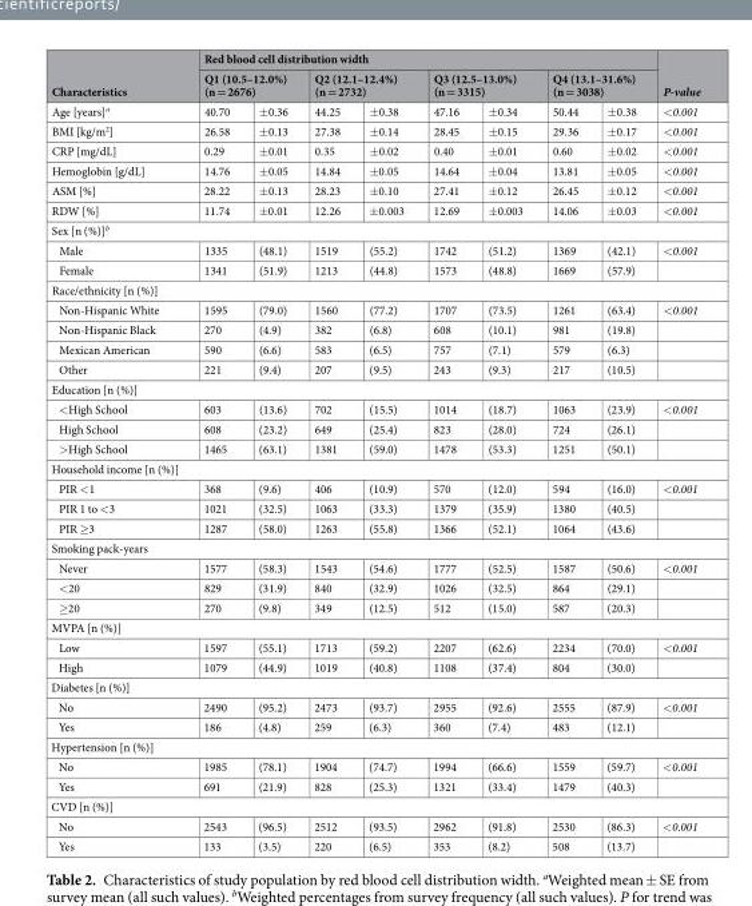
<table><thead><tr><td rowspan="3">Characteristics Age [years]<sup>a</sup></td><td colspan="8">Red blood cell distribution width</td><td rowspan="3">P-value &lt;0.001</td></tr><tr><td colspan="2">Q1 (10.5–12.0%) (n = 2676)</td><td colspan="2">Q2 (12.1–12.4%) (n = 2732)</td><td colspan="2">Q3 (12.5–13.0%) (n = 3315)</td><td colspan="2">Q4 (13.1–31.6%) (n = 3038)</td></tr><tr><td>40.70</td><td>±0.36</td><td>44.25</td><td>±0.38</td><td>47.16</td><td>±0.34</td><td>50.44</td><td>±0.38</td></tr></thead><tbody><tr><td>BMI [kg/m<sup>2</sup>]</td><td>26.58</td><td>±0.13</td><td>27.38</td><td>±0.14</td><td>28.45</td><td>±0.15</td><td>29.36</td><td>±0.17</td><td>&lt;0.001</td></tr><tr><td>CRP [mg/dL]</td><td>0.29</td><td>±0.01</td><td>0.35</td><td>±0.02</td><td>0.40</td><td>±0.01</td><td>0.60</td><td>±0.02</td><td>&lt;0.001</td></tr><tr><td>Hemoglobin [g/dL]</td><td>14.76</td><td>±0.05</td><td>14.84</td><td>±0.05</td><td>14.64</td><td>±0.04</td><td>13.81</td><td>±0.05</td><td>&lt;0.001</td></tr><tr><td>ASM [%]</td><td>28.22</td><td>±0.13</td><td>28.23</td><td>±0.10</td><td>27.41</td><td>±0.12</td><td>26.45</td><td>±0.12</td><td>&lt;0.001</td></tr><tr><td>RDW [%]</td><td>11.74</td><td>±0.01</td><td>12.26</td><td>±0.003</td><td>12.69</td><td>±0.003</td><td>14.06</td><td>±0.03</td><td>&lt;0.001</td></tr><tr><td colspan="10">Sex [n (%)]<sup>b</sup></td></tr><tr><td>Male</td><td>1335</td><td>(48.1)</td><td>1519</td><td>(55.2)</td><td>1742</td><td>(51.2)</td><td>1369</td><td>(42.1)</td><td>&lt;0.001</td></tr><tr><td>Female</td><td>1341</td><td>(51.9)</td><td>1213</td><td>(44.8)</td><td>1573</td><td>(48.8)</td><td>1669</td><td>(57.9)</td><td></td></tr><tr><td colspan="10">Race/ethnicity [n (%)]</td></tr><tr><td>Non-Hispanic White</td><td>1595</td><td>(79.0)</td><td>1560</td><td>(77.2)</td><td>1707</td><td>(73.5)</td><td>1261</td><td>(63.4)</td><td>&lt;0.001</td></tr><tr><td>Non-Hispanic Black</td><td>270</td><td>(4.9)</td><td>382</td><td>(6.8)</td><td>608</td><td>(10.1)</td><td>981</td><td>(19.8)</td><td></td></tr><tr><td>Mexican American</td><td>590</td><td>(6.6)</td><td>583</td><td>(6.5)</td><td>757</td><td>(7.1)</td><td>579</td><td>(6.3)</td><td></td></tr><tr><td>Other</td><td>221</td><td>(9.4)</td><td>207</td><td>(9.5)</td><td>243</td><td>(9.3)</td><td>217</td><td>(10.5)</td><td></td></tr><tr><td colspan="10">Education [n (%)]</td></tr><tr><td>&lt;High School</td><td>603</td><td>(13.6)</td><td>702</td><td>(15.5)</td><td>1014</td><td>(18.7)</td><td>1063</td><td>(23.9)</td><td>&lt;0.001</td></tr><tr><td>High School</td><td>608</td><td>(23.2)</td><td>649</td><td>(25.4)</td><td>823</td><td>(28.0)</td><td>724</td><td>(26.1)</td><td></td></tr><tr><td>&gt;High School</td><td>1465</td><td>(63.1)</td><td>1381</td><td>(59.0)</td><td>1478</td><td>(53.3)</td><td>1251</td><td>(50.1)</td><td></td></tr><tr><td colspan="10">Household income [n (%)]</td></tr><tr><td>PIR &lt;1</td><td>368</td><td>(9.6)</td><td>406</td><td>(10.9)</td><td>570</td><td>(12.0)</td><td>594</td><td>(16.0)</td><td>&lt;0.001</td></tr><tr><td>PIR 1 to &lt;3</td><td>1021</td><td>(32.5)</td><td>1063</td><td>(33.3)</td><td>1379</td><td>(35.9)</td><td>1380</td><td>(40.5)</td><td></td></tr><tr><td>PIR ≥3</td><td>1287</td><td>(58.0)</td><td>1263</td><td>(55.8)</td><td>1366</td><td>(52.1)</td><td>1064</td><td>(43.6)</td><td></td></tr><tr><td colspan="10">Smoking pack-years</td></tr><tr><td>Never</td><td>1577</td><td>(58.3)</td><td>1543</td><td>(54.6)</td><td>1777</td><td>(52.5)</td><td>1587</td><td>(50.6)</td><td>&lt;0.001</td></tr><tr><td>&lt;20</td><td>829</td><td>(31.9)</td><td>840</td><td>(32.9)</td><td>1026</td><td>(32.5)</td><td>864</td><td>(29.1)</td><td></td></tr><tr><td>≥20</td><td>270</td><td>(9.8)</td><td>349</td><td>(12.5)</td><td>512</td><td>(15.0)</td><td>587</td><td>(20.3)</td><td></td></tr><tr><td colspan="10">MVPA [n (%)]</td></tr><tr><td>Low</td><td>1597</td><td>(55.1)</td><td>1713</td><td>(59.2)</td><td>2207</td><td>(62.6)</td><td>2234</td><td>(70.0)</td><td>&lt;0.001</td></tr><tr><td>High</td><td>1079</td><td>(44.9)</td><td>1019</td><td>(40.8)</td><td>1108</td><td>(37.4)</td><td>804</td><td>(30.0)</td><td></td></tr><tr><td colspan="10">Diabetes [n (%)]</td></tr><tr><td>No</td><td>2490</td><td>(95.2)</td><td>2473</td><td>(93.7)</td><td>2955</td><td>(92.6)</td><td>2555</td><td>(87.9)</td><td>&lt;0.001</td></tr><tr><td>Yes</td><td>186</td><td>(4.8)</td><td>259</td><td>(6.3)</td><td>360</td><td>(7.4)</td><td>483</td><td>(12.1)</td><td></td></tr><tr><td colspan="10">Hypertension [n (%)]</td></tr><tr><td>No</td><td>1985</td><td>(78.1)</td><td>1904</td><td>(74.7)</td><td>1994</td><td>(66.6)</td><td>1559</td><td>(59.7)</td><td>&lt;0.001</td></tr><tr><td>Yes</td><td>691</td><td>(21.9)</td><td>828</td><td>(25.3)</td><td>1321</td><td>(33.4)</td><td>1479</td><td>(40.3)</td><td></td></tr><tr><td colspan="10">CVD [n (%)]</td></tr><tr><td>No</td><td>2543</td><td>(96.5)</td><td>2512</td><td>(93.5)</td><td>2962</td><td>(91.8)</td><td>2530</td><td>(86.3)</td><td>&lt;0.001</td></tr><tr><td>Yes</td><td>133</td><td>(3.5)</td><td>220</td><td>(6.5)</td><td>353</td><td>(8.2)</td><td>508</td><td>(13.7)</td><td></td></tr></tbody></table>